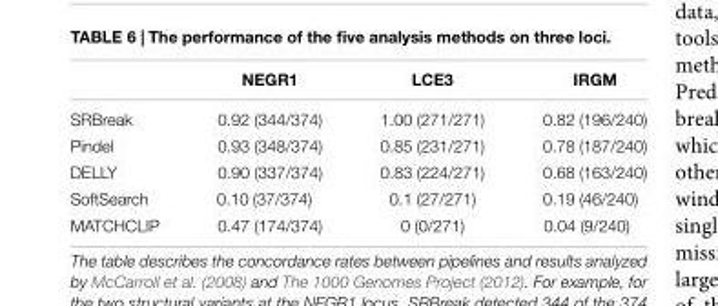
<table><thead><tr><td></td><td>NEGR1</td><td>LCE3</td><td>IRGM</td></tr></thead><tbody><tr><td>SRBreak</td><td>0.92 (344/374)</td><td>1.00 (271/271)</td><td>0.82 (196/240)</td></tr><tr><td>Pindel</td><td>0.93 (348/374)</td><td>0.85 (231/271)</td><td>0.78 (187/240)</td></tr><tr><td>DELLY</td><td>0.90 (337/374)</td><td>0.83 (224/271)</td><td>0.68 (163/240)</td></tr><tr><td>SoftSearch</td><td>0.10 (37/374)</td><td>0.1 (27/271)</td><td>0.19 (46/240)</td></tr><tr><td>MATCHCLIP</td><td>0.47 (174/374)</td><td>0 (0/271)</td><td>0.04 (9/240)</td></tr></tbody></table>